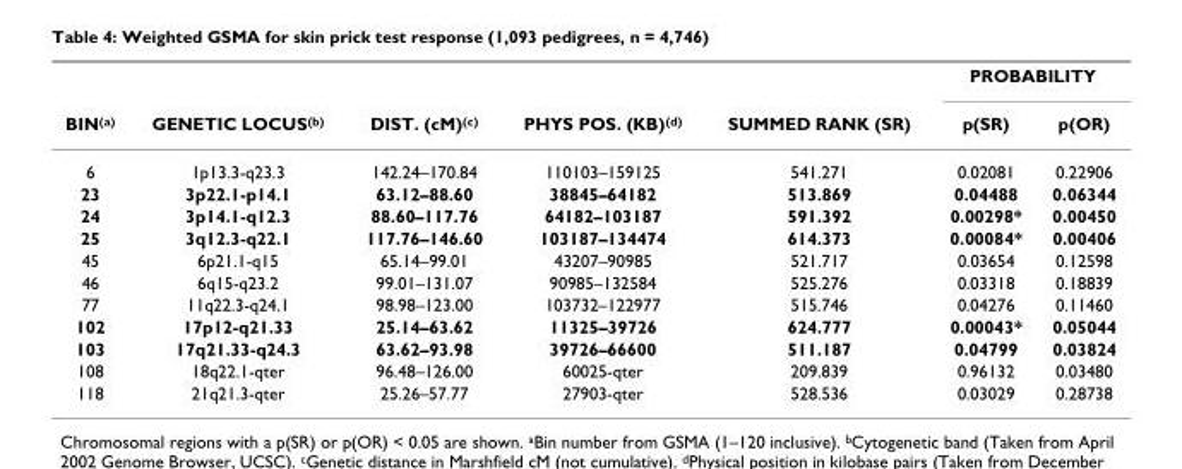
<table><thead><tr><td rowspan="2">BIN<sup>(a)</sup></td><td rowspan="2">GENETIC LOCUS<sup>(b)</sup></td><td rowspan="2">DIST. (cM)<sup>(c)</sup></td><td rowspan="2">PHYS POS. (KB)<sup>(d)</sup></td><td rowspan="2">SUMMED RANK (SR)</td><td colspan="2">PROBABILITY</td></tr><tr><td>p(SR)</td><td>p(OR)</td></tr></thead><tbody><tr><td>6</td><td>1p13.3-q23.3</td><td>142.24–170.84</td><td>110103–159125</td><td>541.271</td><td>0.02081</td><td>0.22906</td></tr><tr><td>23</td><td>3p22.1-p14.1</td><td>63.12–88.60</td><td>38845–64182</td><td>513.869</td><td>0.04488</td><td>0.06344</td></tr><tr><td>24</td><td>3p14.1-q12.3</td><td>88.60–117.76</td><td>64182–103187</td><td>591.392</td><td>0.00298*</td><td>0.00450</td></tr><tr><td>25</td><td>3q12.3-q22.1</td><td>117.76–146.60</td><td>103187–134474</td><td>614.373</td><td>0.00084*</td><td>0.00406</td></tr><tr><td>45</td><td>6p21.1-q15</td><td>65.14–99.01</td><td>43207–90985</td><td>521.717</td><td>0.03654</td><td>0.12598</td></tr><tr><td>46</td><td>6q15-q23.2</td><td>99.01–131.07</td><td>90985–132584</td><td>525.276</td><td>0.03318</td><td>0.18839</td></tr><tr><td>77</td><td>11q22.3-q24.1</td><td>98.98–123.00</td><td>103732–122977</td><td>515.746</td><td>0.04276</td><td>0.11460</td></tr><tr><td>102</td><td>17p12-q21.33</td><td>25.14–63.62</td><td>11325–39726</td><td>624.777</td><td>0.00043*</td><td>0.05044</td></tr><tr><td>103</td><td>17q21.33-q24.3</td><td>63.62–93.98</td><td>39726–66600</td><td>511.187</td><td>0.04799</td><td>0.03824</td></tr><tr><td>108</td><td>18q22.1-qter</td><td>96.48–126.00</td><td>60025-qter</td><td>209.839</td><td>0.96132</td><td>0.03480</td></tr><tr><td>118</td><td>21q21.3-qter</td><td>25.26–57.77</td><td>27903-qter</td><td>528.536</td><td>0.03029</td><td>0.28738</td></tr></tbody></table>